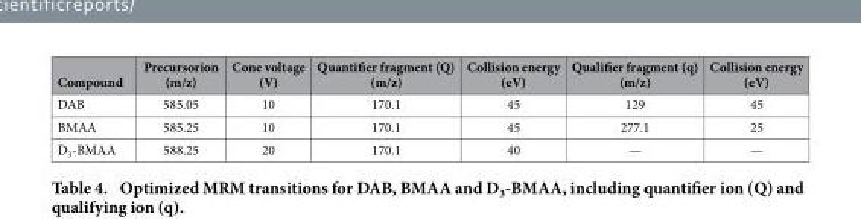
<table><thead><tr><td>Compound</td><td>Precursorion (m/z)</td><td>Cone voltage (V)</td><td>Quantifier fragment (Q) (m/z)</td><td>Collision energy (eV)</td><td>Qualifier fragment (q) (m/z)</td><td>Collision energy (eV)</td></tr></thead><tbody><tr><td>DAB</td><td>585.05</td><td>10</td><td>170.1</td><td>45</td><td>129</td><td>45</td></tr><tr><td>BMAA</td><td>585.25</td><td>10</td><td>170.1</td><td>45</td><td>277.1</td><td>25</td></tr><tr><td>D<sub>3</sub>-BMAA</td><td>588.25</td><td>20</td><td>170.1</td><td>40</td><td>—</td><td>—</td></tr></tbody></table>